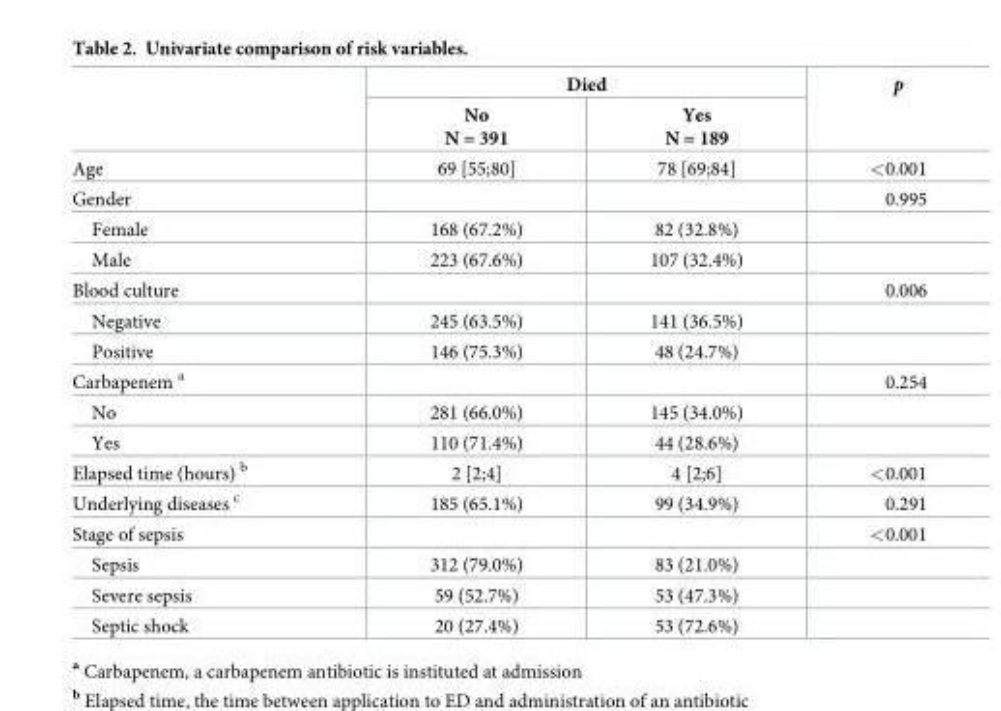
<table><thead><tr><td rowspan="2"></td><td colspan="2">Died</td><td rowspan="2">p</td></tr><tr><td>No N = 391</td><td>Yes N = 189</td></tr></thead><tbody><tr><td>Age</td><td>69 [55;80]</td><td>78 [69;84]</td><td>&lt;0.001</td></tr><tr><td>Gender</td><td></td><td></td><td>0.995</td></tr><tr><td>Female</td><td>168 (67.2%)</td><td>82 (32.8%)</td><td></td></tr><tr><td>Male</td><td>223 (67.6%)</td><td>107 (32.4%)</td><td></td></tr><tr><td>Blood culture</td><td></td><td></td><td>0.006</td></tr><tr><td>Negative</td><td>245 (63.5%)</td><td>141 (36.5%)</td><td></td></tr><tr><td>Positive</td><td>146 (75.3%)</td><td>48 (24.7%)</td><td></td></tr><tr><td>Carbapenem <sup>a</sup></td><td></td><td></td><td>0.254</td></tr><tr><td>No</td><td>281 (66.0%)</td><td>145 (34.0%)</td><td></td></tr><tr><td>Yes</td><td>110 (71.4%)</td><td>44 (28.6%)</td><td></td></tr><tr><td>Elapsed time (hours) <sup>b</sup></td><td>2 [2;4]</td><td>4 [2;6]</td><td>&lt;0.001</td></tr><tr><td>Underlying diseases <sup>c</sup></td><td>185 (65.1%)</td><td>99 (34.9%)</td><td>0.291</td></tr><tr><td>Stage of sepsis</td><td></td><td></td><td>&lt;0.001</td></tr><tr><td>Sepsis</td><td>312 (79.0%)</td><td>83 (21.0%)</td><td></td></tr><tr><td>Severe sepsis</td><td>59 (52.7%)</td><td>53 (47.3%)</td><td></td></tr><tr><td>Septic shock</td><td>20 (27.4%)</td><td>53 (72.6%)</td><td></td></tr></tbody></table>